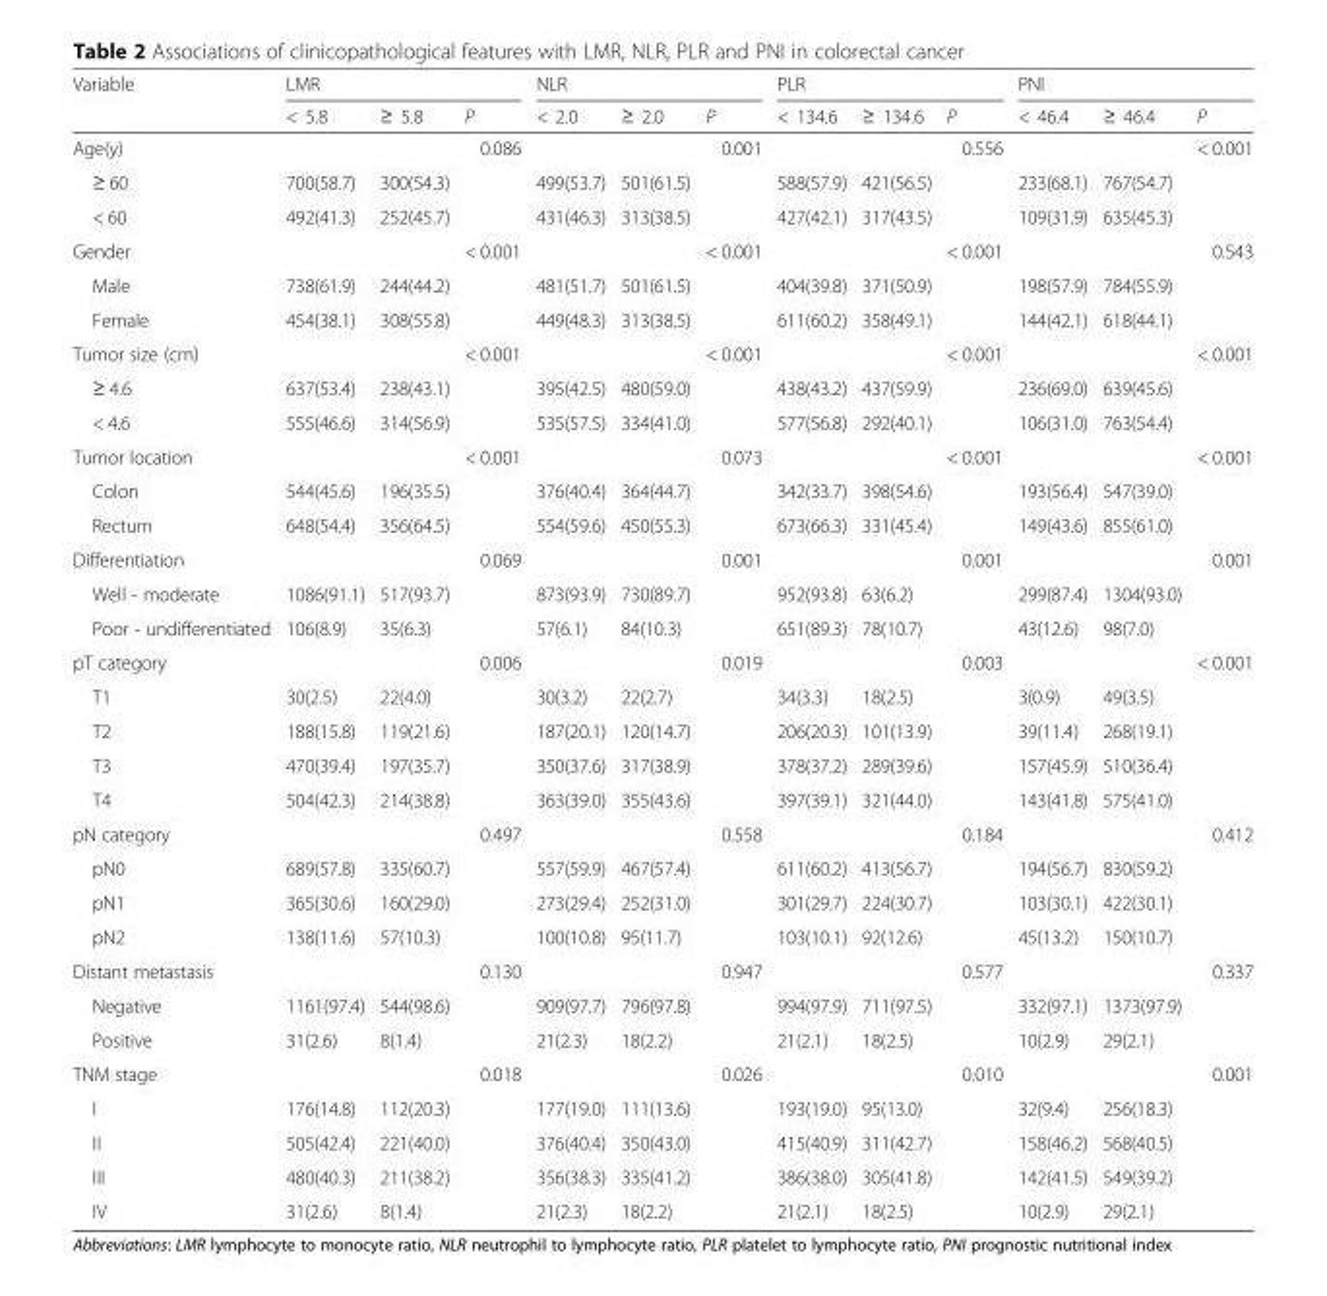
<table><thead><tr><td rowspan="2">Variable</td><td colspan="3">LMR</td><td colspan="3">NLR</td><td colspan="3">PLR</td><td colspan="3">PNI</td></tr><tr><td>&lt; 5.8</td><td>≥ 5.8</td><td>P</td><td>&lt; 2.0</td><td>≥ 2.0</td><td>P</td><td>&lt; 134.6</td><td>≥ 134.6</td><td>P</td><td>&lt; 46.4</td><td>≥ 46.4</td><td>P</td></tr></thead><tbody><tr><td>Age(y)</td><td></td><td></td><td>0.086</td><td></td><td></td><td>0.001</td><td></td><td></td><td>0.556</td><td></td><td></td><td>&lt; 0.001</td></tr><tr><td>≥ 60</td><td>700(58.7)</td><td>300(54.3)</td><td></td><td>499(53.7)</td><td>501(61.5)</td><td></td><td>588(57.9)</td><td>421(56.5)</td><td></td><td>233(68.1)</td><td>767(54.7)</td><td></td></tr><tr><td>&lt; 60</td><td>492(41.3)</td><td>252(45.7)</td><td></td><td>431(46.3)</td><td>313(38.5)</td><td></td><td>427(42.1)</td><td>317(43.5)</td><td></td><td>109(31.9)</td><td>635(45.3)</td><td></td></tr><tr><td>Gender</td><td></td><td></td><td>&lt; 0.001</td><td></td><td></td><td>&lt; 0.001</td><td></td><td></td><td>&lt; 0.001</td><td></td><td></td><td>0.543</td></tr><tr><td>Male</td><td>738(61.9)</td><td>244(44.2)</td><td></td><td>481(51.7)</td><td>501(61.5)</td><td></td><td>404(39.8)</td><td>371(50.9)</td><td></td><td>198(57.9)</td><td>784(55.9)</td><td></td></tr><tr><td>Female</td><td>454(38.1)</td><td>308(55.8)</td><td></td><td>449(48.3)</td><td>313(38.5)</td><td></td><td>611(60.2)</td><td>358(49.1)</td><td></td><td>144(42.1)</td><td>618(44.1)</td><td></td></tr><tr><td>Tumor size (cm)</td><td></td><td></td><td>&lt; 0.001</td><td></td><td></td><td>&lt; 0.001</td><td></td><td></td><td>&lt; 0.001</td><td></td><td></td><td>&lt; 0.001</td></tr><tr><td>≥ 4.6</td><td>637(53.4)</td><td>238(43.1)</td><td></td><td>395(42.5)</td><td>480(59.0)</td><td></td><td>438(43.2)</td><td>437(59.9)</td><td></td><td>236(69.0)</td><td>639(45.6)</td><td></td></tr><tr><td>&lt; 4.6</td><td>555(46.6)</td><td>314(56.9)</td><td></td><td>535(57.5)</td><td>334(41.0)</td><td></td><td>577(56.8)</td><td>292(40.1)</td><td></td><td>106(31.0)</td><td>763(54.4)</td><td></td></tr><tr><td>Tumor location</td><td></td><td></td><td>&lt; 0.001</td><td></td><td></td><td>0.073</td><td></td><td></td><td>&lt; 0.001</td><td></td><td></td><td>&lt; 0.001</td></tr><tr><td>Colon</td><td>544(45.6)</td><td>196(35.5)</td><td></td><td>376(40.4)</td><td>364(44.7)</td><td></td><td>342(33.7)</td><td>398(54.6)</td><td></td><td>193(56.4)</td><td>547(39.0)</td><td></td></tr><tr><td>Rectum</td><td>648(54.4)</td><td>356(64.5)</td><td></td><td>554(59.6)</td><td>450(55.3)</td><td></td><td>673(66.3)</td><td>331(45.4)</td><td></td><td>149(43.6)</td><td>855(61.0)</td><td></td></tr><tr><td>Differentiation</td><td></td><td></td><td>0.069</td><td></td><td></td><td>0.001</td><td></td><td></td><td>0.001</td><td></td><td></td><td>0.001</td></tr><tr><td>Well - moderate</td><td>1086(91.1)</td><td>517(93.7)</td><td></td><td>873(93.9)</td><td>730(89.7)</td><td></td><td>952(93.8)</td><td>63(6.2)</td><td></td><td>299(87.4)</td><td>1304(93.0)</td><td></td></tr><tr><td>Poor - undifferentiated</td><td>106(8.9)</td><td>35(6.3)</td><td></td><td>57(6.1)</td><td>84(10.3)</td><td></td><td>651(89.3)</td><td>78(10.7)</td><td></td><td>43(12.6)</td><td>98(7.0)</td><td></td></tr><tr><td>pT category</td><td></td><td></td><td>0.006</td><td></td><td></td><td>0.019</td><td></td><td></td><td>0.003</td><td></td><td></td><td>&lt; 0.001</td></tr><tr><td>T1</td><td>30(2.5)</td><td>22(4.0)</td><td></td><td>30(3.2)</td><td>22(2.7)</td><td></td><td>34(3.3)</td><td>18(2.5)</td><td></td><td>3(0.9)</td><td>49(3.5)</td><td></td></tr><tr><td>T2</td><td>188(15.8)</td><td>119(21.6)</td><td></td><td>187(20.1)</td><td>120(14.7)</td><td></td><td>206(20.3)</td><td>101(13.9)</td><td></td><td>39(11.4)</td><td>268(19.1)</td><td></td></tr><tr><td>T3</td><td>470(39.4)</td><td>197(35.7)</td><td></td><td>350(37.6)</td><td>317(38.9)</td><td></td><td>378(37.2)</td><td>289(39.6)</td><td></td><td>157(45.9)</td><td>510(36.4)</td><td></td></tr><tr><td>T4</td><td>504(42.3)</td><td>214(38.8)</td><td></td><td>363(39.0)</td><td>355(43.6)</td><td></td><td>397(39.1)</td><td>321(44.0)</td><td></td><td>143(41.8)</td><td>575(41.0)</td><td></td></tr><tr><td>pN category</td><td></td><td></td><td>0.497</td><td></td><td></td><td>0.558</td><td></td><td></td><td>0.184</td><td></td><td></td><td>0.412</td></tr><tr><td>pN0</td><td>689(57.8)</td><td>335(60.7)</td><td></td><td>557(59.9)</td><td>467(57.4)</td><td></td><td>611(60.2)</td><td>413(56.7)</td><td></td><td>194(56.7)</td><td>830(59.2)</td><td></td></tr><tr><td>pN1</td><td>365(30.6)</td><td>160(29.0)</td><td></td><td>273(29.4)</td><td>252(31.0)</td><td></td><td>301(29.7)</td><td>224(30.7)</td><td></td><td>103(30.1)</td><td>422(30.1)</td><td></td></tr><tr><td>pN2</td><td>138(11.6)</td><td>57(10.3)</td><td></td><td>100(10.8)</td><td>95(11.7)</td><td></td><td>103(10.1)</td><td>92(12.6)</td><td></td><td>45(13.2)</td><td>150(10.7)</td><td></td></tr><tr><td>Distant metastasis</td><td></td><td></td><td>0.130</td><td></td><td></td><td>0.947</td><td></td><td></td><td>0.577</td><td></td><td></td><td>0.337</td></tr><tr><td>Negative</td><td>1161(97.4)</td><td>544(98.6)</td><td></td><td>909(97.7)</td><td>796(97.8)</td><td></td><td>994(97.9)</td><td>711(97.5)</td><td></td><td>332(97.1)</td><td>1373(97.9)</td><td></td></tr><tr><td>Positive</td><td>31(2.6)</td><td>8(1.4)</td><td></td><td>21(2.3)</td><td>18(2.2)</td><td></td><td>21(2.1)</td><td>18(2.5)</td><td></td><td>10(2.9)</td><td>29(2.1)</td><td></td></tr><tr><td>TNM stage</td><td></td><td></td><td>0.018</td><td></td><td></td><td>0.026</td><td></td><td></td><td>0.010</td><td></td><td></td><td>0.001</td></tr><tr><td>I</td><td>176(14.8)</td><td>112(20.3)</td><td></td><td>177(19.0)</td><td>111(13.6)</td><td></td><td>193(19.0)</td><td>95(13.0)</td><td></td><td>32(9.4)</td><td>256(18.3)</td><td></td></tr><tr><td>II</td><td>505(42.4)</td><td>221(40.0)</td><td></td><td>376(40.4)</td><td>350(43.0)</td><td></td><td>415(40.9)</td><td>311(42.7)</td><td></td><td>158(46.2)</td><td>568(40.5)</td><td></td></tr><tr><td>III</td><td>480(40.3)</td><td>211(38.2)</td><td></td><td>356(38.3)</td><td>335(41.2)</td><td></td><td>386(38.0)</td><td>305(41.8)</td><td></td><td>142(41.5)</td><td>549(39.2)</td><td></td></tr><tr><td>IV</td><td>31(2.6)</td><td>8(1.4)</td><td></td><td>21(2.3)</td><td>18(2.2)</td><td></td><td>21(2.1)</td><td>18(2.5)</td><td></td><td>10(2.9)</td><td>29(2.1)</td><td></td></tr></tbody></table>